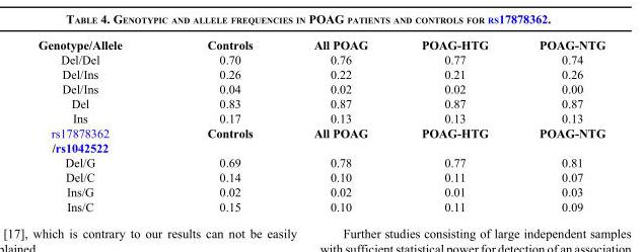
<table><thead><tr><td>Genotype/Allele</td><td>Controls</td><td>All POAG</td><td>POAG-HTG</td><td>POAG-NTG</td></tr></thead><tbody><tr><td>Del/Del</td><td>0.70</td><td>0.76</td><td>0.77</td><td>0.74</td></tr><tr><td>Del/Ins</td><td>0.26</td><td>0.22</td><td>0.21</td><td>0.26</td></tr><tr><td>Del/Ins</td><td>0.04</td><td>0.02</td><td>0.02</td><td>0.00</td></tr><tr><td>Del</td><td>0.83</td><td>0.87</td><td>0.87</td><td>0.87</td></tr><tr><td>Ins</td><td>0.17</td><td>0.13</td><td>0.13</td><td>0.13</td></tr><tr><td>rs17878362 /rs1042522</td><td>Controls</td><td>All POAG</td><td>POAG-HTG</td><td>POAG-NTG</td></tr><tr><td>Del/G</td><td>0.69</td><td>0.78</td><td>0.77</td><td>0.81</td></tr><tr><td>Del/C</td><td>0.14</td><td>0.10</td><td>0.11</td><td>0.07</td></tr><tr><td>Ins/G</td><td>0.02</td><td>0.02</td><td>0.01</td><td>0.03</td></tr><tr><td>Ins/C</td><td>0.15</td><td>0.10</td><td>0.11</td><td>0.09</td></tr></tbody></table>